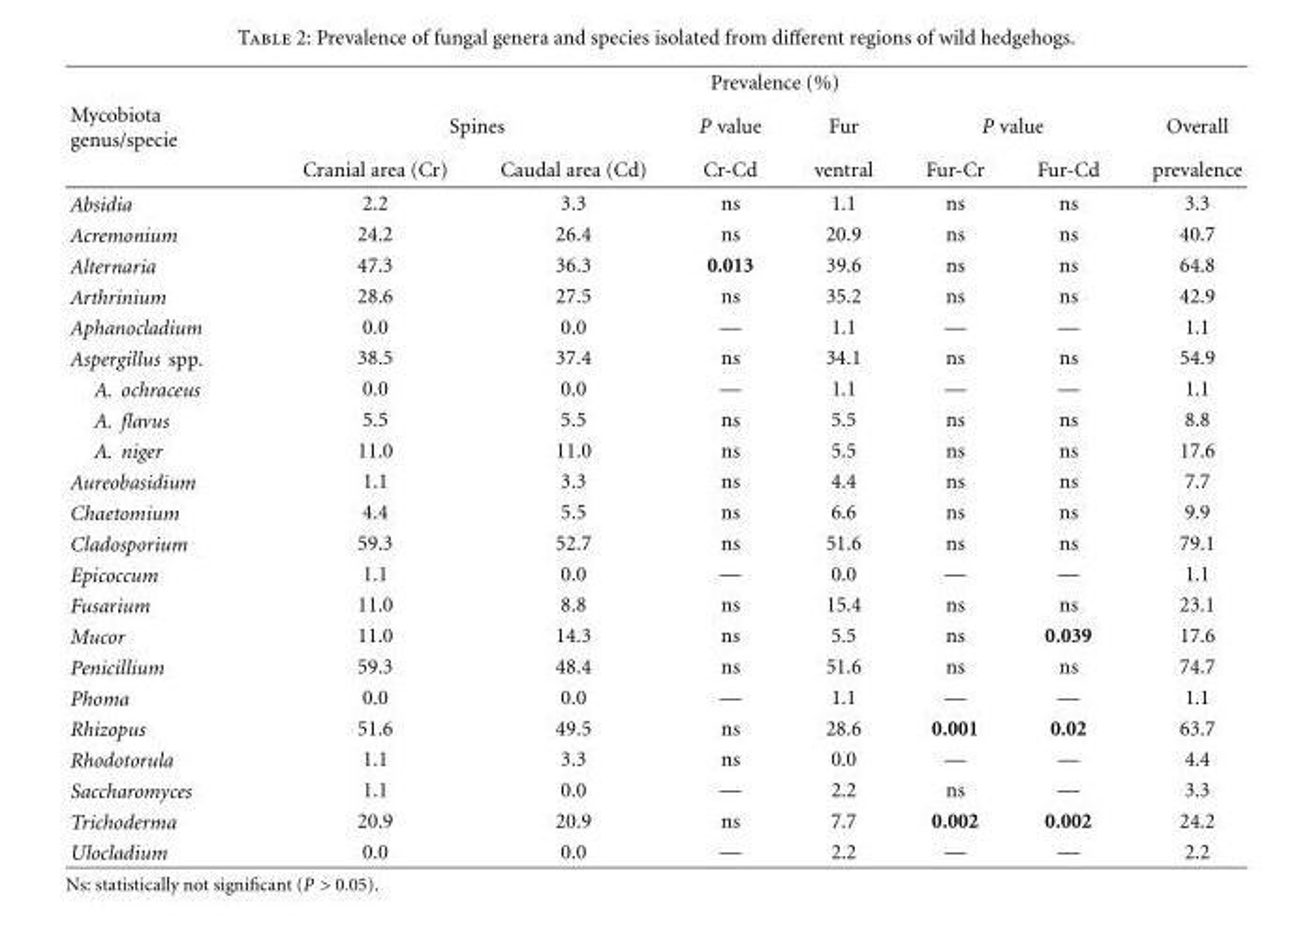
<table><thead><tr><td rowspan="3">Mycobiota genus/specie</td><td colspan="7">Prevalence (%)</td></tr><tr><td colspan="2">Spines</td><td rowspan="2">P value Cr-Cd</td><td rowspan="2">Fur ventral</td><td colspan="2">P value</td><td rowspan="2">Overall prevalence</td></tr><tr><td>Cranial area (Cr)</td><td>Caudal area (Cd)</td><td>Fur-Cr</td><td>Fur-Cd</td></tr></thead><tbody><tr><td>Absidia</td><td>2.2</td><td>3.3</td><td>ns</td><td>1.1</td><td>ns</td><td>ns</td><td>3.3</td></tr><tr><td>Acremonium</td><td>24.2</td><td>26.4</td><td>ns</td><td>20.9</td><td>ns</td><td>ns</td><td>40.7</td></tr><tr><td>Alternaria</td><td>47.3</td><td>36.3</td><td>0.013</td><td>39.6</td><td>ns</td><td>ns</td><td>64.8</td></tr><tr><td>Arthrinium</td><td>28.6</td><td>27.5</td><td>ns</td><td>35.2</td><td>ns</td><td>ns</td><td>42.9</td></tr><tr><td>Aphanocladium</td><td>0.0</td><td>0.0</td><td>—</td><td>1.1</td><td>—</td><td>—</td><td>1.1</td></tr><tr><td>Aspergillus spp.</td><td>38.5</td><td>37.4</td><td>ns</td><td>34.1</td><td>ns</td><td>ns</td><td>54.9</td></tr><tr><td>A. ochraceus</td><td>0.0</td><td>0.0</td><td>—</td><td>1.1</td><td>—</td><td>—</td><td>1.1</td></tr><tr><td>A. flavus</td><td>5.5</td><td>5.5</td><td>ns</td><td>5.5</td><td>ns</td><td>ns</td><td>8.8</td></tr><tr><td>A. niger</td><td>11.0</td><td>11.0</td><td>ns</td><td>5.5</td><td>ns</td><td>ns</td><td>17.6</td></tr><tr><td>Aureobasidium</td><td>1.1</td><td>3.3</td><td>ns</td><td>4.4</td><td>ns</td><td>ns</td><td>7.7</td></tr><tr><td>Chaetomium</td><td>4.4</td><td>5.5</td><td>ns</td><td>6.6</td><td>ns</td><td>ns</td><td>9.9</td></tr><tr><td>Cladosporium</td><td>59.3</td><td>52.7</td><td>ns</td><td>51.6</td><td>ns</td><td>ns</td><td>79.1</td></tr><tr><td>Epicoccum</td><td>1.1</td><td>0.0</td><td>—</td><td>0.0</td><td>—</td><td>—</td><td>1.1</td></tr><tr><td>Fusarium</td><td>11.0</td><td>8.8</td><td>ns</td><td>15.4</td><td>ns</td><td>ns</td><td>23.1</td></tr><tr><td>Mucor</td><td>11.0</td><td>14.3</td><td>ns</td><td>5.5</td><td>ns</td><td>0.039</td><td>17.6</td></tr><tr><td>Penicillium</td><td>59.3</td><td>48.4</td><td>ns</td><td>51.6</td><td>ns</td><td>ns</td><td>74.7</td></tr><tr><td>Phoma</td><td>0.0</td><td>0.0</td><td>—</td><td>1.1</td><td>—</td><td>—</td><td>1.1</td></tr><tr><td>Rhizopus</td><td>51.6</td><td>49.5</td><td>ns</td><td>28.6</td><td>0.001</td><td>0.02</td><td>63.7</td></tr><tr><td>Rhodotorula</td><td>1.1</td><td>3.3</td><td>ns</td><td>0.0</td><td>—</td><td>—</td><td>4.4</td></tr><tr><td>Saccharomyces</td><td>1.1</td><td>0.0</td><td>—</td><td>2.2</td><td>ns</td><td>—</td><td>3.3</td></tr><tr><td>Trichoderma</td><td>20.9</td><td>20.9</td><td>ns</td><td>7.7</td><td>0.002</td><td>0.002</td><td>24.2</td></tr><tr><td>Ulocladium</td><td>0.0</td><td>0.0</td><td>—</td><td>2.2</td><td>—</td><td>—</td><td>2.2</td></tr></tbody></table>